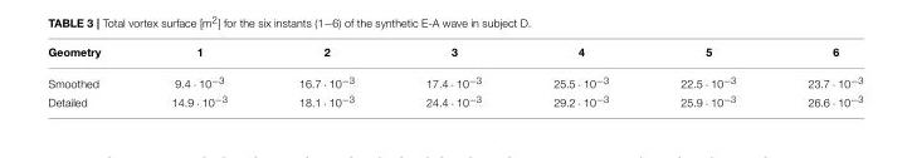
<table><thead><tr><td>Geometry</td><td>1</td><td>2</td><td>3</td><td>4</td><td>5</td><td>6</td></tr></thead><tbody><tr><td>Smoothed</td><td>9.4 · 10<sup>−3</sup></td><td>16.7 · 10<sup>−3</sup></td><td>17.4 · 10<sup>−3</sup></td><td>25.5 · 10<sup>−3</sup></td><td>22.5 · 10<sup>−3</sup></td><td>23.7 · 10<sup>−3</sup></td></tr><tr><td>Detailed</td><td>14.9 · 10<sup>−3</sup></td><td>18.1 · 10<sup>−3</sup></td><td>24.4 · 10<sup>−3</sup></td><td>29.2 · 10<sup>−3</sup></td><td>25.9 · 10<sup>−3</sup></td><td>26.6 · 10<sup>−3</sup></td></tr></tbody></table>